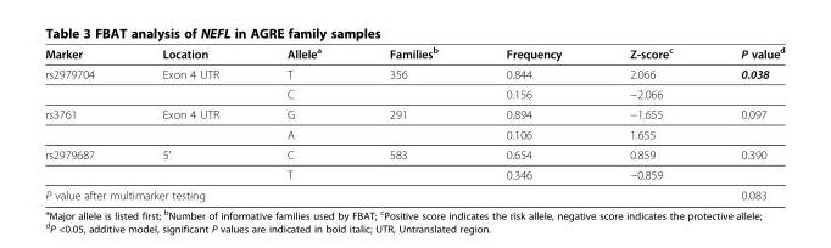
<table><thead><tr><td>Marker</td><td>Location</td><td>Allele<sup>a</sup></td><td>Families<sup>b</sup></td><td>Frequency</td><td>Z-score<sup>c</sup></td><td>P value<sup>d</sup></td></tr></thead><tbody><tr><td rowspan="2">rs2979704</td><td>Exon 4 UTR</td><td>T</td><td>356</td><td>0.844</td><td>2.066</td><td>0.038</td></tr><tr><td></td><td>C</td><td></td><td>0.156</td><td>−2.066</td><td></td></tr><tr><td rowspan="2">rs3761</td><td>Exon 4 UTR</td><td>G</td><td>291</td><td>0.894</td><td>−1.655</td><td>0.097</td></tr><tr><td></td><td>A</td><td></td><td>0.106</td><td>1.655</td><td></td></tr><tr><td rowspan="2">rs2979687</td><td>5’</td><td>C</td><td>583</td><td>0.654</td><td>0.859</td><td>0.390</td></tr><tr><td></td><td>T</td><td></td><td>0.346</td><td>−0.859</td><td></td></tr><tr><td colspan="6">P value after multimarker testing</td><td>0.083</td></tr></tbody></table>